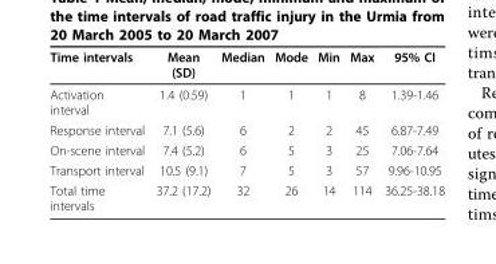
<table><thead><tr><td>Time intervals</td><td>Mean (SD)</td><td>Median</td><td>Mode</td><td>Min</td><td>Max</td><td>95% CI</td></tr></thead><tbody><tr><td>Activation interval</td><td>1.4 (0.59)</td><td>1</td><td>1</td><td>1</td><td>8</td><td>1.39-1.46</td></tr><tr><td>Response interval</td><td>7.1 (5.6)</td><td>6</td><td>2</td><td>2</td><td>45</td><td>6.87-7.49</td></tr><tr><td>On-scene interval</td><td>7.4 (5.2)</td><td>6</td><td>5</td><td>3</td><td>25</td><td>7.06-7.64</td></tr><tr><td>Transport interval</td><td>10.5 (9.1)</td><td>7</td><td>5</td><td>3</td><td>57</td><td>9.96-10.95</td></tr><tr><td>Total time intervals</td><td>37.2 (17.2)</td><td>32</td><td>26</td><td>14</td><td>114</td><td>36.25-38.18</td></tr></tbody></table>